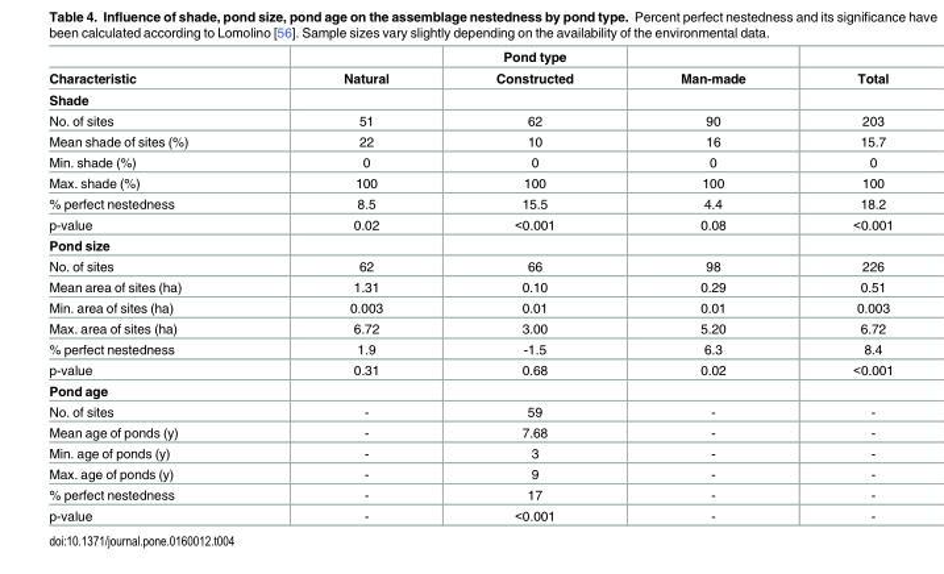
<table><thead><tr><td rowspan="2">Characteristic</td><td rowspan="2">Natural</td><td rowspan="2">Pond type Constructed</td><td rowspan="2">Man-made</td><td rowspan="2">Total</td></tr><tr></tr></thead><tbody><tr><td colspan="5">Shade</td></tr><tr><td>No. of sites</td><td>51</td><td>62</td><td>90</td><td>203</td></tr><tr><td>Mean shade of sites (%)</td><td>22</td><td>10</td><td>16</td><td>15.7</td></tr><tr><td>Min. shade (%)</td><td>0</td><td>0</td><td>0</td><td>0</td></tr><tr><td>Max. shade (%)</td><td>100</td><td>100</td><td>100</td><td>100</td></tr><tr><td>% perfect nestedness</td><td>8.5</td><td>15.5</td><td>4.4</td><td>18.2</td></tr><tr><td>p-value</td><td>0.02</td><td>&lt;0.001</td><td>0.08</td><td>&lt;0.001</td></tr><tr><td colspan="5">Pond size</td></tr><tr><td>No. of sites</td><td>62</td><td>66</td><td>98</td><td>226</td></tr><tr><td>Mean area of sites (ha)</td><td>1.31</td><td>0.10</td><td>0.29</td><td>0.51</td></tr><tr><td>Min. area of sites (ha)</td><td>0.003</td><td>0.01</td><td>0.01</td><td>0.003</td></tr><tr><td>Max. area of sites (ha)</td><td>6.72</td><td>3.00</td><td>5.20</td><td>6.72</td></tr><tr><td>% perfect nestedness</td><td>1.9</td><td>-1.5</td><td>6.3</td><td>8.4</td></tr><tr><td>p-value</td><td>0.31</td><td>0.68</td><td>0.02</td><td>&lt;0.001</td></tr><tr><td colspan="5">Pond age</td></tr><tr><td>No. of sites</td><td>-</td><td>59</td><td>-</td><td>-</td></tr><tr><td>Mean age of ponds (y)</td><td>-</td><td>7.68</td><td>-</td><td>-</td></tr><tr><td>Min. age of ponds (y)</td><td>-</td><td>3</td><td>-</td><td>-</td></tr><tr><td>Max. age of ponds (y)</td><td>-</td><td>9</td><td>-</td><td>-</td></tr><tr><td>% perfect nestedness</td><td>-</td><td>17</td><td>-</td><td>-</td></tr><tr><td>p-value</td><td>-</td><td>&lt;0.001</td><td>-</td><td>-</td></tr></tbody></table>